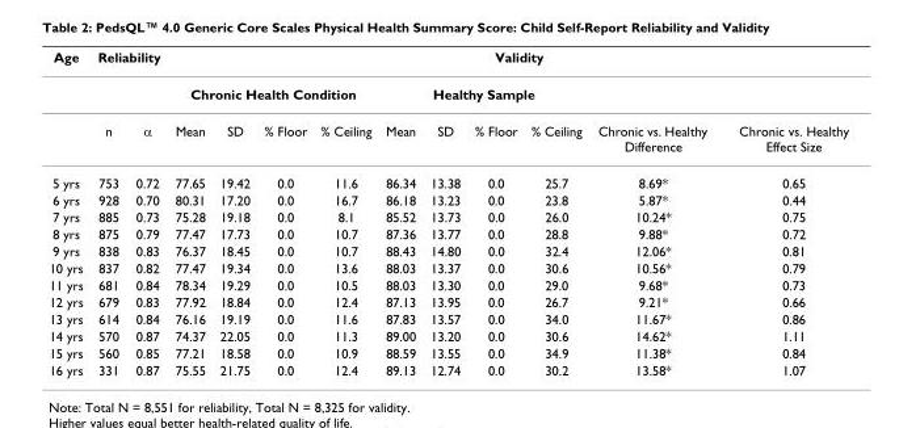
<table><thead><tr><td rowspan="3">Age</td><td colspan="2">Reliability</td><td colspan="10">Validity</td></tr><tr><td rowspan="2">n</td><td rowspan="2">α</td><td colspan="4">Chronic Health Condition</td><td colspan="4">Healthy Sample</td><td rowspan="2">Chronic vs. Healthy Difference</td><td rowspan="2">Chronic vs. Healthy Effect Size</td></tr><tr><td>Mean</td><td>SD</td><td>% Floor</td><td>% Ceiling</td><td>Mean</td><td>SD</td><td>% Floor</td><td>% Ceiling</td></tr></thead><tbody><tr><td>5 yrs</td><td>753</td><td>0.72</td><td>77.65</td><td>19.42</td><td>0.0</td><td>11.6</td><td>86.34</td><td>13.38</td><td>0.0</td><td>25.7</td><td>8.69*</td><td>0.65</td></tr><tr><td>6 yrs</td><td>928</td><td>0.70</td><td>80.31</td><td>17.20</td><td>0.0</td><td>16.7</td><td>86.18</td><td>13.23</td><td>0.0</td><td>23.8</td><td>5.87*</td><td>0.44</td></tr><tr><td>7 yrs</td><td>885</td><td>0.73</td><td>75.28</td><td>19.18</td><td>0.0</td><td>8.1</td><td>85.52</td><td>13.73</td><td>0.0</td><td>26.0</td><td>10.24*</td><td>0.75</td></tr><tr><td>8 yrs</td><td>875</td><td>0.79</td><td>77.47</td><td>17.73</td><td>0.0</td><td>10.7</td><td>87.36</td><td>13.77</td><td>0.0</td><td>28.8</td><td>9.88*</td><td>0.72</td></tr><tr><td>9 yrs</td><td>838</td><td>0.83</td><td>76.37</td><td>18.45</td><td>0.0</td><td>10.7</td><td>88.43</td><td>14.80</td><td>0.0</td><td>32.4</td><td>12.06*</td><td>0.81</td></tr><tr><td>10 yrs</td><td>837</td><td>0.82</td><td>77.47</td><td>19.34</td><td>0.0</td><td>13.6</td><td>88.03</td><td>13.37</td><td>0.0</td><td>30.6</td><td>10.56*</td><td>0.79</td></tr><tr><td>11 yrs</td><td>681</td><td>0.84</td><td>78.34</td><td>19.29</td><td>0.0</td><td>10.5</td><td>88.03</td><td>13.30</td><td>0.0</td><td>29.0</td><td>9.68*</td><td>0.73</td></tr><tr><td>12 yrs</td><td>679</td><td>0.83</td><td>77.92</td><td>18.84</td><td>0.0</td><td>12.4</td><td>87.13</td><td>13.95</td><td>0.0</td><td>26.7</td><td>9.21*</td><td>0.66</td></tr><tr><td>13 yrs</td><td>614</td><td>0.84</td><td>76.16</td><td>19.19</td><td>0.0</td><td>11.6</td><td>87.83</td><td>13.57</td><td>0.0</td><td>34.0</td><td>11.67*</td><td>0.86</td></tr><tr><td>14 yrs</td><td>570</td><td>0.87</td><td>74.37</td><td>22.05</td><td>0.0</td><td>11.3</td><td>89.00</td><td>13.20</td><td>0.0</td><td>30.6</td><td>14.62*</td><td>1.11</td></tr><tr><td>15 yrs</td><td>560</td><td>0.85</td><td>77.21</td><td>18.58</td><td>0.0</td><td>10.9</td><td>88.59</td><td>13.55</td><td>0.0</td><td>34.9</td><td>11.38*</td><td>0.84</td></tr><tr><td>16 yrs</td><td>331</td><td>0.87</td><td>75.55</td><td>21.75</td><td>0.0</td><td>12.4</td><td>89.13</td><td>12.74</td><td>0.0</td><td>30.2</td><td>13.58*</td><td>1.07</td></tr></tbody></table>